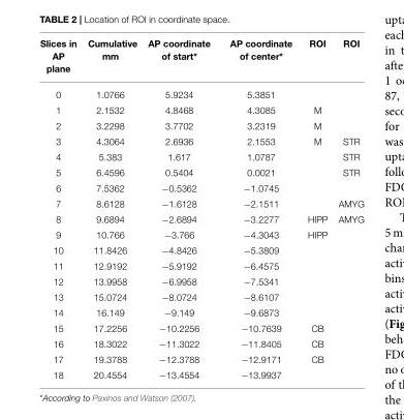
<table><thead><tr><td>Slices in AP plane</td><td>Cumulative mm</td><td>AP coordinate of start*</td><td>AP coordinate of center*</td><td>ROI</td><td>ROI</td></tr></thead><tbody><tr><td>0</td><td>1.0766</td><td>5.9234</td><td>5.3851</td><td></td><td></td></tr><tr><td>1</td><td>2.1532</td><td>4.8468</td><td>4.3085</td><td>M</td><td></td></tr><tr><td>2</td><td>3.2298</td><td>3.7702</td><td>3.2319</td><td>M</td><td></td></tr><tr><td>3</td><td>4.3064</td><td>2.6936</td><td>2.1553</td><td>M</td><td>STR</td></tr><tr><td>4</td><td>5.383</td><td>1.617</td><td>1.0787</td><td></td><td>STR</td></tr><tr><td>5</td><td>6.4596</td><td>0.5404</td><td>0.0021</td><td></td><td>STR</td></tr><tr><td>6</td><td>7.5362</td><td>−0.5362</td><td>−1.0745</td><td></td><td></td></tr><tr><td>7</td><td>8.6128</td><td>−1.6128</td><td>−2.1511</td><td></td><td>AMYG</td></tr><tr><td>8</td><td>9.6894</td><td>−2.6894</td><td>−3.2277</td><td>HIPP</td><td>AMYG</td></tr><tr><td>9</td><td>10.766</td><td>−3.766</td><td>−4.3043</td><td>HIPP</td><td></td></tr><tr><td>10</td><td>11.8426</td><td>−4.8426</td><td>−5.3809</td><td></td><td></td></tr><tr><td>11</td><td>12.9192</td><td>−5.9192</td><td>−6.4575</td><td></td><td></td></tr><tr><td>12</td><td>13.9958</td><td>−6.9958</td><td>−7.5341</td><td></td><td></td></tr><tr><td>13</td><td>15.0724</td><td>−8.0724</td><td>−8.6107</td><td></td><td></td></tr><tr><td>14</td><td>16.149</td><td>−9.149</td><td>−9.6873</td><td></td><td></td></tr><tr><td>15</td><td>17.2256</td><td>−10.2256</td><td>−10.7639</td><td>CB</td><td></td></tr><tr><td>16</td><td>18.3022</td><td>−11.3022</td><td>−11.8405</td><td>CB</td><td></td></tr><tr><td>17</td><td>19.3788</td><td>−12.3788</td><td>−12.9171</td><td>CB</td><td></td></tr><tr><td>18</td><td>20.4554</td><td>−13.4554</td><td>−13.9937</td><td></td><td></td></tr></tbody></table>